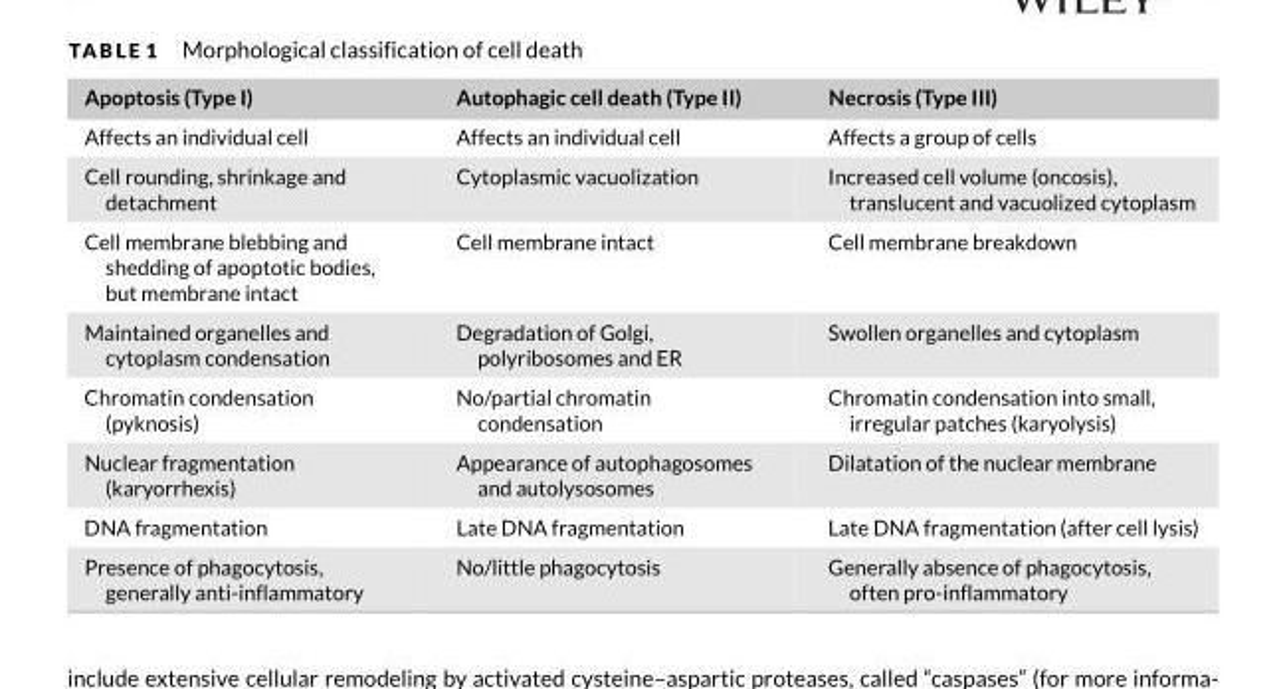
<table><thead><tr><td>Apoptosis (Type I)</td><td>Autophagic cell death (Type II)</td><td>Necrosis (Type III)</td></tr></thead><tbody><tr><td>Affects an individual cell</td><td>Affects an individual cell</td><td>Affects a group of cells</td></tr><tr><td>Cell rounding, shrinkage and detachment</td><td>Cytoplasmic vacuolization</td><td>Increased cell volume (oncosis), translucent and vacuolized cytoplasm</td></tr><tr><td>Cell membrane blebbing and shedding of apoptotic bodies, but membrane intact</td><td>Cell membrane intact</td><td>Cell membrane breakdown</td></tr><tr><td>Maintained organelles and cytoplasm condensation</td><td>Degradation of Golgi, polyribosomes and ER</td><td>Swollen organelles and cytoplasm</td></tr><tr><td>Chromatin condensation (pyknosis)</td><td>No/partial chromatin condensation</td><td>Chromatin condensation into small, irregular patches (karyolysis)</td></tr><tr><td>Nuclear fragmentation (karyorrhexis)</td><td>Appearance of autophagosomes and autolysosomes</td><td>Dilatation of the nuclear membrane</td></tr><tr><td>DNA fragmentation</td><td>Late DNA fragmentation</td><td>Late DNA fragmentation (after cell lysis)</td></tr><tr><td>Presence of phagocytosis, generally anti-inflammatory</td><td>No/little phagocytosis</td><td>Generally absence of phagocytosis, often pro-inflammatory</td></tr></tbody></table>